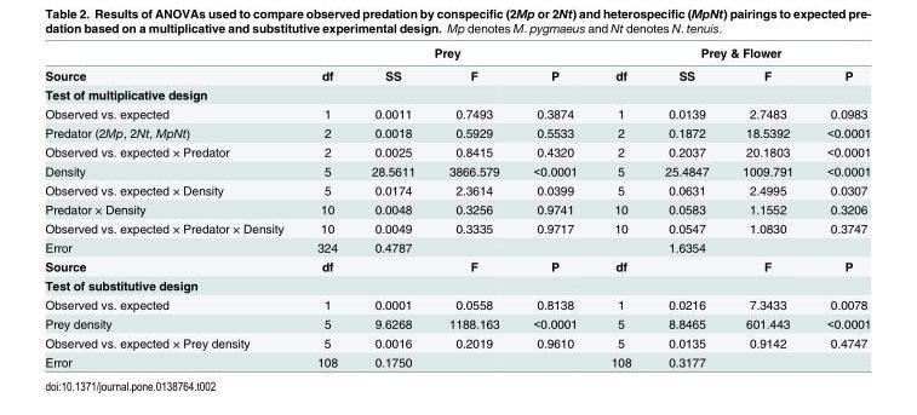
<table><thead><tr><td rowspan="2">Source</td><td colspan="4">Prey</td><td colspan="4">Prey &amp; Flower</td></tr><tr><td>df</td><td>SS</td><td>F</td><td>P</td><td>df</td><td>SS</td><td>F</td><td>P</td></tr></thead><tbody><tr><td colspan="9">Test of multiplicative design</td></tr><tr><td>Observed vs. expected</td><td>1</td><td>0.0011</td><td>0.7493</td><td>0.3874</td><td>1</td><td>0.0139</td><td>2.7483</td><td>0.0983</td></tr><tr><td>Predator (2Mp, 2Nt, MpNt)</td><td>2</td><td>0.0018</td><td>0.5929</td><td>0.5533</td><td>2</td><td>0.1872</td><td>18.5392</td><td>&lt;0.0001</td></tr><tr><td>Observed vs. expected × Predator</td><td>2</td><td>0.0025</td><td>0.8415</td><td>0.4320</td><td>2</td><td>0.2037</td><td>20.1803</td><td>&lt;0.0001</td></tr><tr><td>Density</td><td>5</td><td>28.5611</td><td>3866.579</td><td>&lt;0.0001</td><td>5</td><td>25.4847</td><td>1009.791</td><td>&lt;0.0001</td></tr><tr><td>Observed vs. expected × Density</td><td>5</td><td>0.0174</td><td>2.3614</td><td>0.0399</td><td>5</td><td>0.0631</td><td>2.4995</td><td>0.0307</td></tr><tr><td>Predator × Density</td><td>10</td><td>0.0048</td><td>0.3256</td><td>0.9741</td><td>10</td><td>0.0583</td><td>1.1552</td><td>0.3206</td></tr><tr><td>Observed vs. expected × Predator × Density</td><td>10</td><td>0.0049</td><td>0.3335</td><td>0.9717</td><td>10</td><td>0.0547</td><td>1.0830</td><td>0.3747</td></tr><tr><td>Error</td><td>324</td><td>0.4787</td><td></td><td></td><td></td><td>1.6354</td><td></td><td></td></tr><tr><td>Source</td><td>df</td><td></td><td>F</td><td>P</td><td>df</td><td></td><td>F</td><td>P</td></tr><tr><td colspan="9">Test of substitutive design</td></tr><tr><td>Observed vs. expected</td><td>1</td><td>0.0001</td><td>0.0558</td><td>0.8138</td><td>1</td><td>0.0216</td><td>7.3433</td><td>0.0078</td></tr><tr><td>Prey density</td><td>5</td><td>9.6268</td><td>1188.163</td><td>&lt;0.0001</td><td>5</td><td>8.8465</td><td>601.443</td><td>&lt;0.0001</td></tr><tr><td>Observed vs. expected × Prey density</td><td>5</td><td>0.0016</td><td>0.2019</td><td>0.9610</td><td>5</td><td>0.0135</td><td>0.9142</td><td>0.4747</td></tr><tr><td>Error</td><td>108</td><td>0.1750</td><td></td><td></td><td>108</td><td>0.3177</td><td></td><td></td></tr></tbody></table>